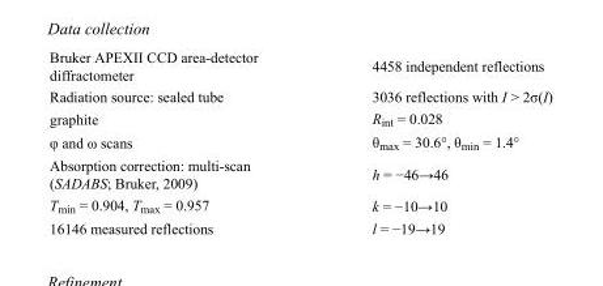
<table><tbody><tr><td>Bruker APEXII CCD area-detector diffractometer</td><td>4458 independent reflections</td></tr><tr><td>Radiation source: sealed tube</td><td>3036 reflections with I &gt; 2σ(I)</td></tr><tr><td>graphite</td><td>R<sub>int</sub> = 0.028</td></tr><tr><td>φ and ω scans</td><td>θ<sub>max</sub> = 30.6°, θ<sub>min</sub> = 1.4°</td></tr><tr><td>Absorption correction: multi-scan (SADABS; Bruker, 2009)</td><td>h = −46→46</td></tr><tr><td>T<sub>min</sub> = 0.904, T<sub>max</sub> = 0.957</td><td>k = −10→10</td></tr><tr><td>16146 measured reflections</td><td>l = −19→19</td></tr></tbody></table>